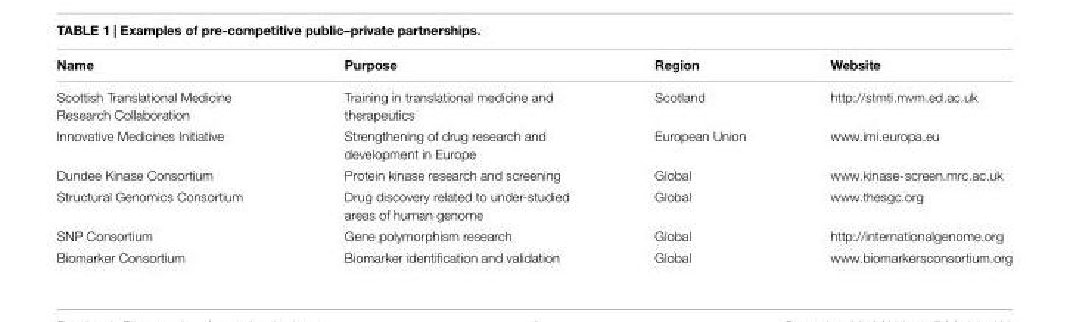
<table><thead><tr><td>Name</td><td>Purpose</td><td>Region</td><td>Website</td></tr></thead><tbody><tr><td>Scottish Translational Medicine Research Collaboration</td><td>Training in translational medicine and therapeutics</td><td>Scotland</td><td>http://stmti.mvm.ed.ac.uk</td></tr><tr><td>Innovative Medicines Initiative</td><td>Strengthening of drug research and development in Europe</td><td>European Union</td><td>www.imi.europa.eu</td></tr><tr><td>Dundee Kinase Consortium</td><td>Protein kinase research and screening</td><td>Global</td><td>www.kinase-screen.mrc.ac.uk</td></tr><tr><td>Structural Genomics Consortium</td><td>Drug discovery related to under-studied areas of human genome</td><td>Global</td><td>www.thesgc.org</td></tr><tr><td>SNP Consortium</td><td>Gene polymorphism research</td><td>Global</td><td>http://internationalgenome.org</td></tr><tr><td>Biomarker Consortium</td><td>Biomarker identification and validation</td><td>Global</td><td>www.biomarkersconsortium.org</td></tr></tbody></table>